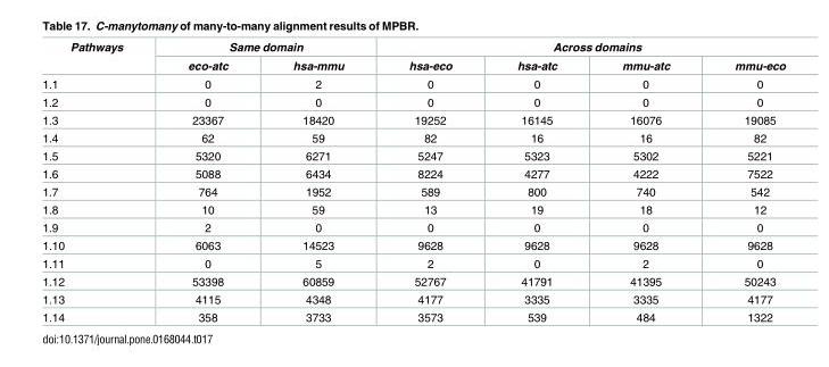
<table><thead><tr><td rowspan="2">Pathways</td><td colspan="2">Same domain</td><td colspan="4">Across domains</td></tr><tr><td>eco-atc</td><td>hsa-mmu</td><td>hsa-eco</td><td>hsa-atc</td><td>mmu-atc</td><td>mmu-eco</td></tr></thead><tbody><tr><td>1.1</td><td>0</td><td>2</td><td>0</td><td>0</td><td>0</td><td>0</td></tr><tr><td>1.2</td><td>0</td><td>0</td><td>0</td><td>0</td><td>0</td><td>0</td></tr><tr><td>1.3</td><td>23367</td><td>18420</td><td>19252</td><td>16145</td><td>16076</td><td>19085</td></tr><tr><td>1.4</td><td>62</td><td>59</td><td>82</td><td>16</td><td>16</td><td>82</td></tr><tr><td>1.5</td><td>5320</td><td>6271</td><td>5247</td><td>5323</td><td>5302</td><td>5221</td></tr><tr><td>1.6</td><td>5088</td><td>6434</td><td>8224</td><td>4277</td><td>4222</td><td>7522</td></tr><tr><td>1.7</td><td>764</td><td>1952</td><td>589</td><td>800</td><td>740</td><td>542</td></tr><tr><td>1.8</td><td>10</td><td>59</td><td>13</td><td>19</td><td>18</td><td>12</td></tr><tr><td>1.9</td><td>2</td><td>0</td><td>0</td><td>0</td><td>0</td><td>0</td></tr><tr><td>1.10</td><td>6063</td><td>14523</td><td>9628</td><td>9628</td><td>9628</td><td>9628</td></tr><tr><td>1.11</td><td>0</td><td>5</td><td>2</td><td>0</td><td>2</td><td>0</td></tr><tr><td>1.12</td><td>53398</td><td>60859</td><td>52767</td><td>41791</td><td>41395</td><td>50243</td></tr><tr><td>1.13</td><td>4115</td><td>4348</td><td>4177</td><td>3335</td><td>3335</td><td>4177</td></tr><tr><td>1.14</td><td>358</td><td>3733</td><td>3573</td><td>539</td><td>484</td><td>1322</td></tr></tbody></table>